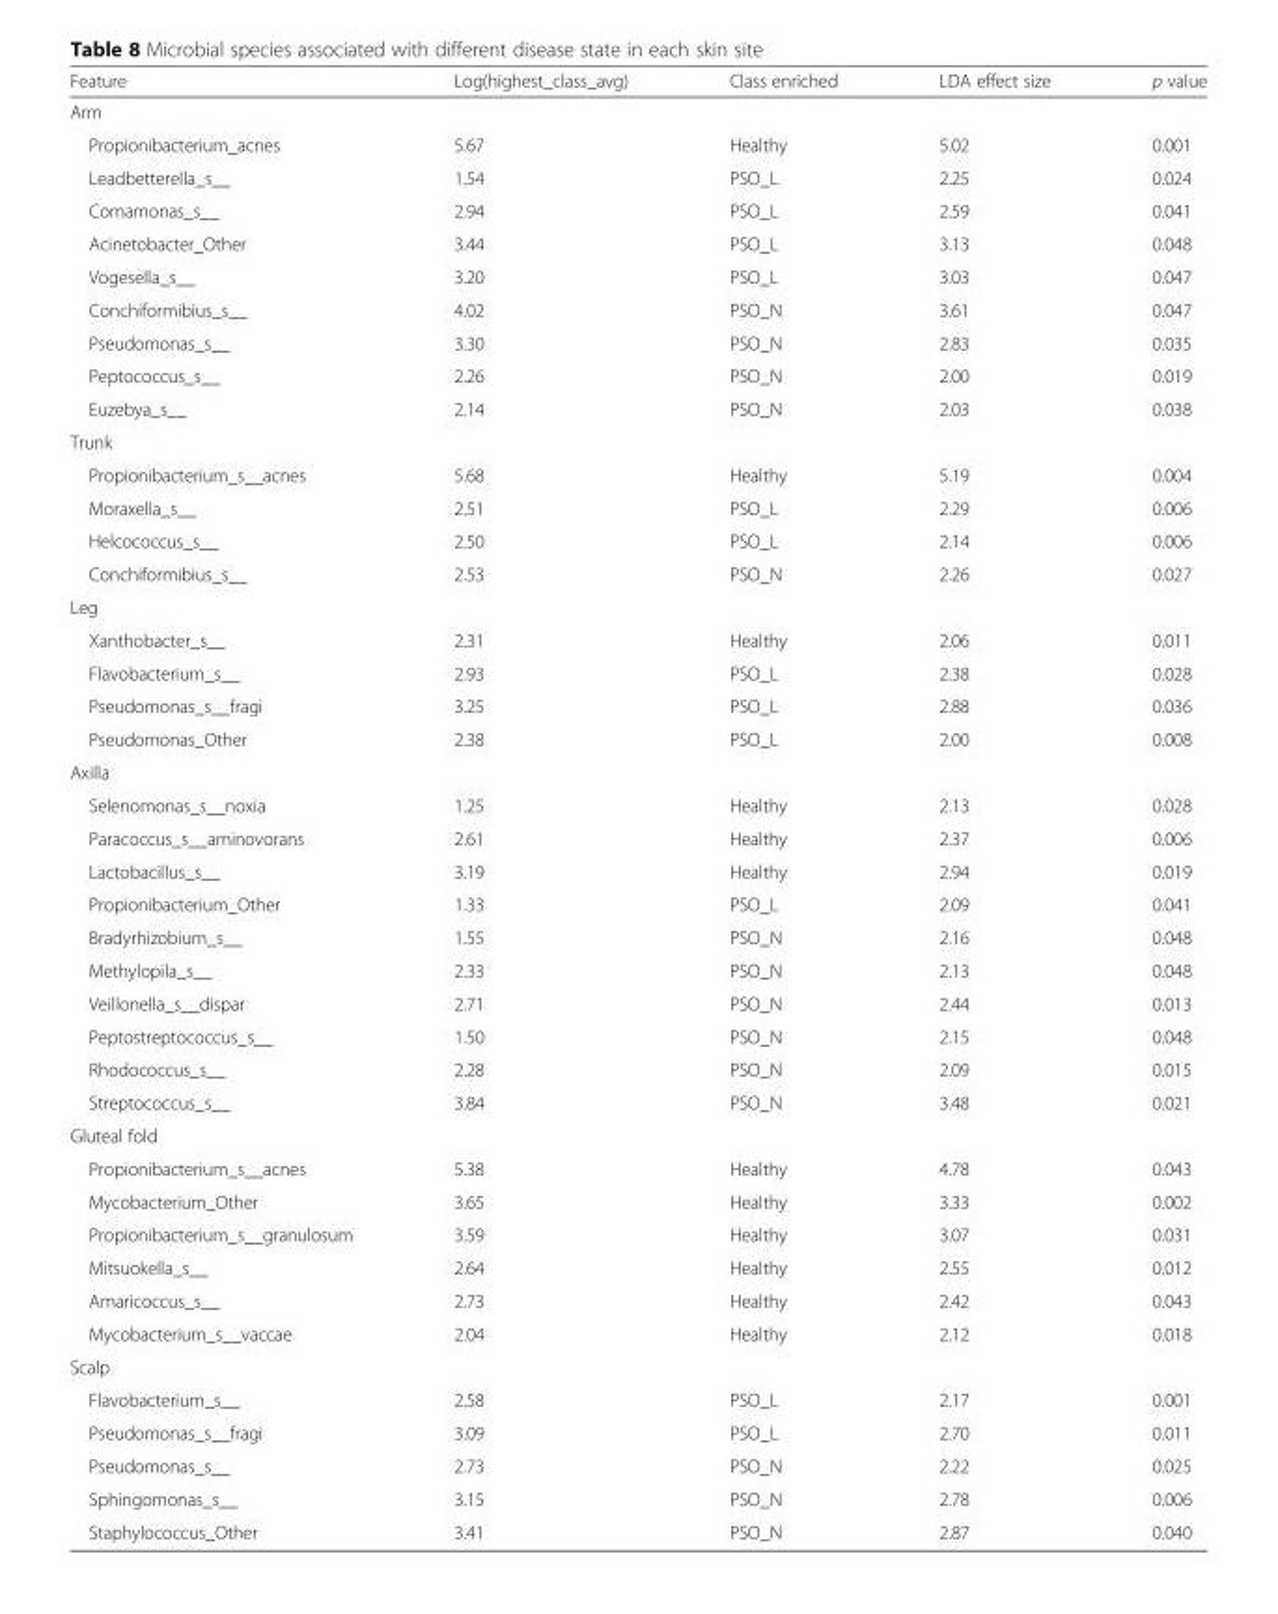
<table><thead><tr><td>Feature</td><td>Log(highest_class_avg)</td><td>Class enriched</td><td>LDA effect size</td><td>p value</td></tr></thead><tbody><tr><td colspan="5">Arm</td></tr><tr><td>Propionibacterium_acnes</td><td>5.67</td><td>Healthy</td><td>5.02</td><td>0.001</td></tr><tr><td>Leadbetterella_s__</td><td>1.54</td><td>PSO_L</td><td>2.25</td><td>0.024</td></tr><tr><td>Comamonas_s__</td><td>2.94</td><td>PSO_L</td><td>2.59</td><td>0.041</td></tr><tr><td>Acinetobacter_Other</td><td>3.44</td><td>PSO_L</td><td>3.13</td><td>0.048</td></tr><tr><td>Vogesella_s__</td><td>3.20</td><td>PSO_L</td><td>3.03</td><td>0.047</td></tr><tr><td>Conchiformibius_s__</td><td>4.02</td><td>PSO_N</td><td>3.61</td><td>0.047</td></tr><tr><td>Pseudomonas_s__</td><td>3.30</td><td>PSO_N</td><td>2.83</td><td>0.035</td></tr><tr><td>Peptococcus_s__</td><td>2.26</td><td>PSO_N</td><td>2.00</td><td>0.019</td></tr><tr><td>Euzebya_s__</td><td>2.14</td><td>PSO_N</td><td>2.03</td><td>0.038</td></tr><tr><td colspan="5">Trunk</td></tr><tr><td>Propionibacterium_s__acnes</td><td>5.68</td><td>Healthy</td><td>5.19</td><td>0.004</td></tr><tr><td>Moraxella_s__</td><td>2.51</td><td>PSO_L</td><td>2.29</td><td>0.006</td></tr><tr><td>Helcococcus_s__</td><td>2.50</td><td>PSO_L</td><td>2.14</td><td>0.006</td></tr><tr><td>Conchiformibius_s__</td><td>2.53</td><td>PSO_N</td><td>2.26</td><td>0.027</td></tr><tr><td colspan="5">Leg</td></tr><tr><td>Xanthobacter_s__</td><td>2.31</td><td>Healthy</td><td>2.06</td><td>0.011</td></tr><tr><td>Flavobacterium_s__</td><td>2.93</td><td>PSO_L</td><td>2.38</td><td>0.028</td></tr><tr><td>Pseudomonas_s__fragi</td><td>3.25</td><td>PSO_L</td><td>2.88</td><td>0.036</td></tr><tr><td>Pseudomonas_Other</td><td>2.38</td><td>PSO_L</td><td>2.00</td><td>0.008</td></tr><tr><td colspan="5">Axilla</td></tr><tr><td>Selenomonas_s__noxia</td><td>1.25</td><td>Healthy</td><td>2.13</td><td>0.028</td></tr><tr><td>Paracoccus_s__aminovorans</td><td>2.61</td><td>Healthy</td><td>2.37</td><td>0.006</td></tr><tr><td>Lactobacillus_s__</td><td>3.19</td><td>Healthy</td><td>2.94</td><td>0.019</td></tr><tr><td>Propionibacterium_Other</td><td>1.33</td><td>PSO_L</td><td>2.09</td><td>0.041</td></tr><tr><td>Bradyrhizobium_s__</td><td>1.55</td><td>PSO_N</td><td>2.16</td><td>0.048</td></tr><tr><td>Methylopila_s__</td><td>2.33</td><td>PSO_N</td><td>2.13</td><td>0.048</td></tr><tr><td>Veillonella_s__dispar</td><td>2.71</td><td>PSO_N</td><td>2.44</td><td>0.013</td></tr><tr><td>Peptostreptococcus_s__</td><td>1.50</td><td>PSO_N</td><td>2.15</td><td>0.048</td></tr><tr><td>Rhodococcus_s__</td><td>2.28</td><td>PSO_N</td><td>2.09</td><td>0.015</td></tr><tr><td>Streptococcus_s__</td><td>3.84</td><td>PSO_N</td><td>3.48</td><td>0.021</td></tr><tr><td colspan="5">Gluteal fold</td></tr><tr><td>Propionibacterium_s__acnes</td><td>5.38</td><td>Healthy</td><td>4.78</td><td>0.043</td></tr><tr><td>Mycobacterium_Other</td><td>3.65</td><td>Healthy</td><td>3.33</td><td>0.002</td></tr><tr><td>Propionibacterium_s__granulosum</td><td>3.59</td><td>Healthy</td><td>3.07</td><td>0.031</td></tr><tr><td>Mitsuokella_s__</td><td>2.64</td><td>Healthy</td><td>2.55</td><td>0.012</td></tr><tr><td>Amaricoccus_s__</td><td>2.73</td><td>Healthy</td><td>2.42</td><td>0.043</td></tr><tr><td>Mycobacterium_s__vaccae</td><td>2.04</td><td>Healthy</td><td>2.12</td><td>0.018</td></tr><tr><td colspan="5">Scalp</td></tr><tr><td>Flavobacterium_s__</td><td>2.58</td><td>PSO_L</td><td>2.17</td><td>0.001</td></tr><tr><td>Pseudomonas_s__fragi</td><td>3.09</td><td>PSO_L</td><td>2.70</td><td>0.011</td></tr><tr><td>Pseudomonas_s__</td><td>2.73</td><td>PSO_N</td><td>2.22</td><td>0.025</td></tr><tr><td>Sphingomonas_s__</td><td>3.15</td><td>PSO_N</td><td>2.78</td><td>0.006</td></tr><tr><td>Staphylococcus_Other</td><td>3.41</td><td>PSO_N</td><td>2.87</td><td>0.040</td></tr></tbody></table>